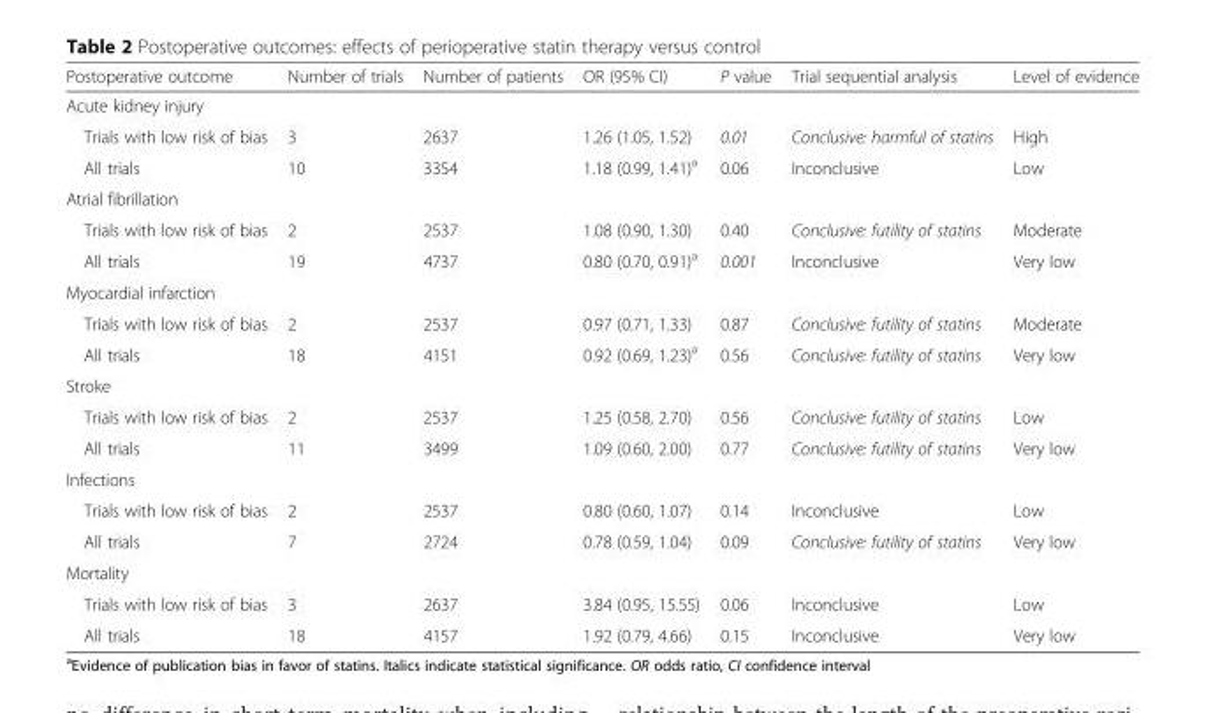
<table><thead><tr><td>Postoperative outcome</td><td>Number of trials</td><td>Number of patients</td><td>OR (95% CI)</td><td>P value</td><td>Trial sequential analysis</td><td>Level of evidence</td></tr></thead><tbody><tr><td colspan="7">Acute kidney injury</td></tr><tr><td>Trials with low risk of bias</td><td>3</td><td>2637</td><td>1.26 (1.05, 1.52)</td><td>0.01</td><td>Conclusive: harmful of statins</td><td>High</td></tr><tr><td>All trials</td><td>10</td><td>3354</td><td>1.18 (0.99, 1.41)a</td><td>0.06</td><td>Inconclusive</td><td>Low</td></tr><tr><td colspan="7">Atrial fibrillation</td></tr><tr><td>Trials with low risk of bias</td><td>2</td><td>2537</td><td>1.08 (0.90, 1.30)</td><td>0.40</td><td>Conclusive: futility of statins</td><td>Moderate</td></tr><tr><td>All trials</td><td>19</td><td>4737</td><td>0.80 (0.70, 0.91)a</td><td>0.001</td><td>Inconclusive</td><td>Very low</td></tr><tr><td colspan="7">Myocardial infarction</td></tr><tr><td>Trials with low risk of bias</td><td>2</td><td>2537</td><td>0.97 (0.71, 1.33)</td><td>0.87</td><td>Conclusive: futility of statins</td><td>Moderate</td></tr><tr><td>All trials</td><td>18</td><td>4151</td><td>0.92 (0.69, 1.23)a</td><td>0.56</td><td>Conclusive: futility of statins</td><td>Very low</td></tr><tr><td colspan="7">Stroke</td></tr><tr><td>Trials with low risk of bias</td><td>2</td><td>2537</td><td>1.25 (0.58, 2.70)</td><td>0.56</td><td>Conclusive: futility of statins</td><td>Low</td></tr><tr><td>All trials</td><td>11</td><td>3499</td><td>1.09 (0.60, 2.00)</td><td>0.77</td><td>Conclusive: futility of statins</td><td>Very low</td></tr><tr><td colspan="7">Infections</td></tr><tr><td>Trials with low risk of bias</td><td>2</td><td>2537</td><td>0.80 (0.60, 1.07)</td><td>0.14</td><td>Inconclusive</td><td>Low</td></tr><tr><td>All trials</td><td>7</td><td>2724</td><td>0.78 (0.59, 1.04)</td><td>0.09</td><td>Conclusive: futility of statins</td><td>Very low</td></tr><tr><td colspan="7">Mortality</td></tr><tr><td>Trials with low risk of bias</td><td>3</td><td>2637</td><td>3.84 (0.95, 15.55)</td><td>0.06</td><td>Inconclusive</td><td>Low</td></tr><tr><td>All trials</td><td>18</td><td>4157</td><td>1.92 (0.79, 4.66)</td><td>0.15</td><td>Inconclusive</td><td>Very low</td></tr></tbody></table>